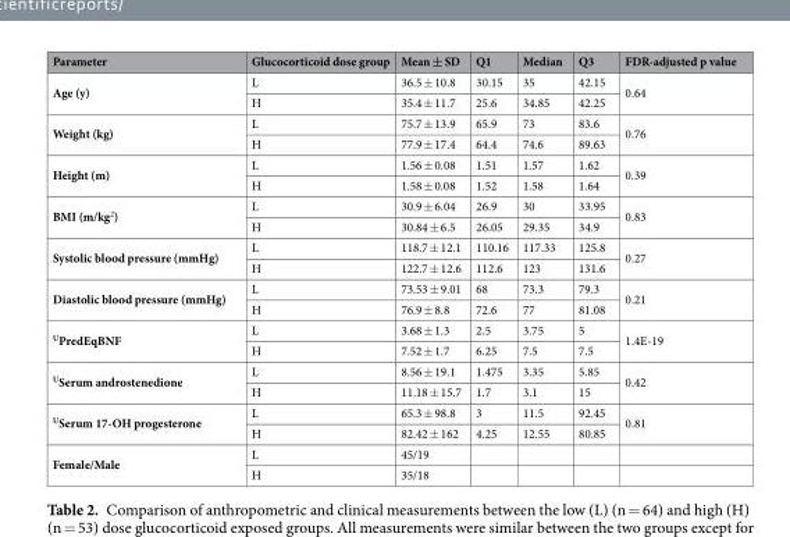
<table><thead><tr><td>Parameter</td><td>Glucocorticoid dose group</td><td>Mean ± SD</td><td>Q1</td><td>Median</td><td>Q3</td><td>FDR-adjusted p value</td></tr></thead><tbody><tr><td rowspan="2">Age (y)</td><td>L</td><td>36.5 ± 10.8</td><td>30.15</td><td>35</td><td>42.15</td><td rowspan="2">0.64</td></tr><tr><td>H</td><td>35.4 ± 11.7</td><td>25.6</td><td>34.85</td><td>42.25</td></tr><tr><td rowspan="2">Weight (kg)</td><td>L</td><td>75.7 ± 13.9</td><td>65.9</td><td>73</td><td>83.6</td><td rowspan="2">0.76</td></tr><tr><td>H</td><td>77.9 ± 17.4</td><td>64.4</td><td>74.6</td><td>89.63</td></tr><tr><td rowspan="2">Height (m)</td><td>L</td><td>1.56 ± 0.08</td><td>1.51</td><td>1.57</td><td>1.62</td><td rowspan="2">0.39</td></tr><tr><td>H</td><td>1.58 ± 0.08</td><td>1.52</td><td>1.58</td><td>1.64</td></tr><tr><td rowspan="2">BMI (m/kg<sup>2</sup>)</td><td>L</td><td>30.9 ± 6.04</td><td>26.9</td><td>30</td><td>33.95</td><td rowspan="2">0.83</td></tr><tr><td>H</td><td>30.84 ± 6.5</td><td>26.05</td><td>29.35</td><td>34.9</td></tr><tr><td rowspan="2">Systolic blood pressure (mmHg)</td><td>L</td><td>118.7 ± 12.1</td><td>110.16</td><td>117.33</td><td>125.8</td><td rowspan="2">0.27</td></tr><tr><td>H</td><td>122.7 ± 12.6</td><td>112.6</td><td>123</td><td>131.6</td></tr><tr><td rowspan="2">Diastolic blood pressure (mmHg)</td><td>L</td><td>73.53 ± 9.01</td><td>68</td><td>73.3</td><td>79.3</td><td rowspan="2">0.21</td></tr><tr><td>H</td><td>76.9 ± 8.8</td><td>72.6</td><td>77</td><td>81.08</td></tr><tr><td rowspan="2"><sup>U</sup>PredEqBNF</td><td>L</td><td>3.68 ± 1.3</td><td>2.5</td><td>3.75</td><td>5</td><td rowspan="2">1.4E-19</td></tr><tr><td>H</td><td>7.52 ± 1.7</td><td>6.25</td><td>7.5</td><td>7.5</td></tr><tr><td rowspan="2"><sup>U</sup>Serum androstenedione</td><td>L</td><td>8.56 ± 19.1</td><td>1.475</td><td>3.35</td><td>5.85</td><td rowspan="2">0.42</td></tr><tr><td>H</td><td>11.18 ± 15.7</td><td>1.7</td><td>3.1</td><td>15</td></tr><tr><td rowspan="2"><sup>U</sup>Serum 17-OH progesterone</td><td>L</td><td>65.3 ± 98.8</td><td>3</td><td>11.5</td><td>92.45</td><td rowspan="2">0.81</td></tr><tr><td>H</td><td>82.42 ± 162</td><td>4.25</td><td>12.55</td><td>80.85</td></tr><tr><td rowspan="2">Female/Male</td><td>L</td><td>45/19</td><td></td><td></td><td></td><td></td></tr><tr><td>H</td><td>35/18</td><td></td><td></td><td></td><td></td></tr></tbody></table>